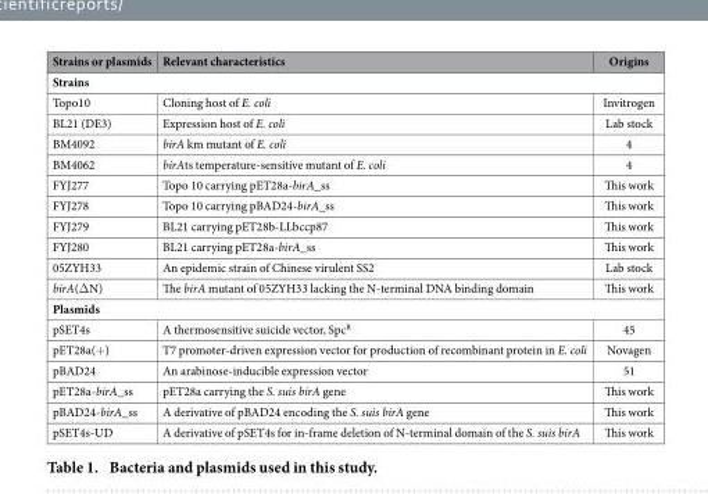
<table><thead><tr><td>Strains or plasmids</td><td>Relevant characteristics</td><td>Origins</td></tr></thead><tbody><tr><td colspan="3">Strains</td></tr><tr><td>Topo10</td><td>Cloning host of E. coli</td><td>Invitrogen</td></tr><tr><td>BL21 (DE3)</td><td>Expression host of E. coli</td><td>Lab stock</td></tr><tr><td>BM4092</td><td>birA km mutant of E. coli</td><td>4</td></tr><tr><td>BM4062</td><td>birAts temperature-sensitive mutant of E. coli</td><td>4</td></tr><tr><td>FYJ277</td><td>Topo 10 carrying pET28a-birA_ss</td><td>This work</td></tr><tr><td>FYJ278</td><td>Topo 10 carrying pBAD24-birA_ss</td><td>This work</td></tr><tr><td>FYJ279</td><td>BL21 carrying pET28b-LLbccp87</td><td>This work</td></tr><tr><td>FYJ280</td><td>BL21 carrying pET28a-birA_ss</td><td>This work</td></tr><tr><td>05ZYH33</td><td>An epidemic strain of Chinese virulent SS2</td><td>Lab stock</td></tr><tr><td>birA(Δ N)</td><td>The birA mutant of 05ZYH33 lacking the N-terminal DNA binding domain</td><td>This work</td></tr><tr><td colspan="3">Plasmids</td></tr><tr><td>pSET4s</td><td>A thermosensitive suicide vector, Spc<sup>R</sup></td><td>45</td></tr><tr><td>pET28a(+ )</td><td>T7 promoter-driven expression vector for production of recombinant protein in E. coli</td><td>Novagen</td></tr><tr><td>pBAD24</td><td>An arabinose-inducible expression vector</td><td>51</td></tr><tr><td>pET28a-birA_ss</td><td>pET28a carrying the S. suis birA gene</td><td>This work</td></tr><tr><td>pBAD24-birA_ss</td><td>A derivative of pBAD24 encoding the S. suis birA gene</td><td>This work</td></tr><tr><td>pSET4s-UD</td><td>A derivative of pSET4s for in-frame deletion of N-terminal domain of the S. suis birA</td><td>This work</td></tr></tbody></table>